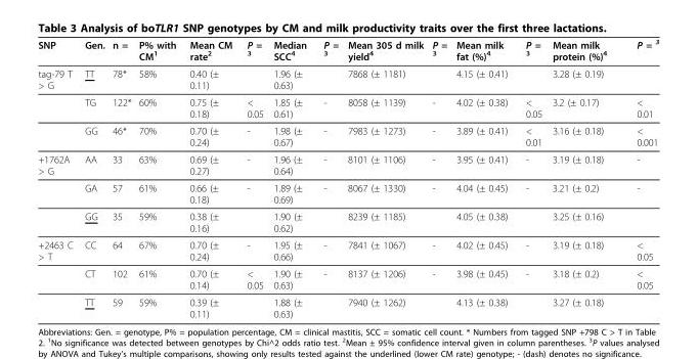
<table><thead><tr><td>SNP</td><td>Gen.</td><td>n =</td><td>P% with CM<sup>1</sup></td><td>Mean CM rate<sup>2</sup></td><td>P = <sup>3</sup></td><td>Median SCC<sup>4</sup></td><td>P = <sup>3</sup></td><td>Mean 305 d milk yield<sup>4</sup></td><td>P = <sup>3</sup></td><td>Mean milk fat (%)<sup>4</sup></td><td>P = <sup>3</sup></td><td>Mean milk protein (%)<sup>4</sup></td><td>P = <sup>3</sup></td></tr></thead><tbody><tr><td rowspan="3">tag-79 T &gt; G</td><td>TT</td><td>78*</td><td>58%</td><td>0.40 (± 0.11)</td><td></td><td>1.96 (± 0.63)</td><td></td><td>7868 (± 1181)</td><td></td><td>4.15 (± 0.41)</td><td></td><td>3.28 (± 0.19)</td><td></td></tr><tr><td>TG</td><td>122*</td><td>60%</td><td>0.75 (± 0.18)</td><td>&lt; 0.05</td><td>1.85 (± 0.61)</td><td>-</td><td>8058 (± 1139)</td><td>-</td><td>4.02 (± 0.38)</td><td>&lt; 0.05</td><td>3.2 (± 0.17)</td><td>&lt; 0.01</td></tr><tr><td>GG</td><td>46*</td><td>70%</td><td>0.70 (± 0.24)</td><td>-</td><td>1.98 (± 0.67)</td><td>-</td><td>7983 (± 1273)</td><td>-</td><td>3.89 (± 0.41)</td><td>&lt; 0.01</td><td>3.16 (± 0.18)</td><td>&lt; 0.001</td></tr><tr><td rowspan="3">+1762A &gt; G</td><td>AA</td><td>33</td><td>63%</td><td>0.69 (± 0.27)</td><td>-</td><td>1.96 (± 0.64)</td><td>-</td><td>8101 (± 1106)</td><td>-</td><td>3.95 (± 0.41)</td><td>-</td><td>3.19 (± 0.18)</td><td>-</td></tr><tr><td>GA</td><td>57</td><td>61%</td><td>0.66 (± 0.18)</td><td>-</td><td>1.89 (± 0.69)</td><td>-</td><td>8067 (± 1330)</td><td>-</td><td>4.04 (± 0.45)</td><td>-</td><td>3.21 (± 0.2)</td><td>-</td></tr><tr><td>GG</td><td>35</td><td>59%</td><td>0.38 (± 0.16)</td><td></td><td>1.90 (± 0.62)</td><td></td><td>8239 (± 1185)</td><td></td><td>4.05 (± 0.38)</td><td></td><td>3.25 (± 0.16)</td><td></td></tr><tr><td rowspan="3">+2463 C &gt; T</td><td>CC</td><td>64</td><td>67%</td><td>0.70 (± 0.24)</td><td>-</td><td>1.95 (± 0.66)</td><td>-</td><td>7841 (± 1067)</td><td>-</td><td>4.02 (± 0.45)</td><td>-</td><td>3.19 (± 0.18)</td><td>&lt; 0.05</td></tr><tr><td>CT</td><td>102</td><td>61%</td><td>0.70 (± 0.14)</td><td>&lt; 0.05</td><td>1.90 (± 0.63)</td><td>-</td><td>8137 (± 1206)</td><td>-</td><td>3.98 (± 0.45)</td><td>-</td><td>3.18 (± 0.2)</td><td>&lt; 0.05</td></tr><tr><td>TT</td><td>59</td><td>59%</td><td>0.39 (± 0.11)</td><td></td><td>1.88 (± 0.63)</td><td></td><td>7940 (± 1262)</td><td></td><td>4.13 (± 0.38)</td><td></td><td>3.27 (± 0.18)</td><td></td></tr></tbody></table>